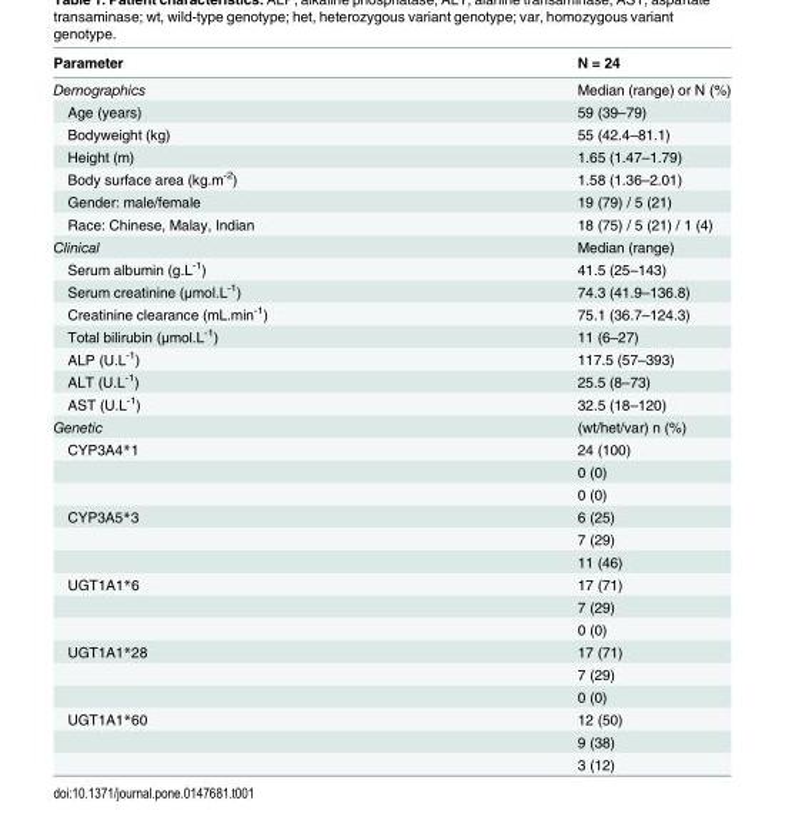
<table><thead><tr><td>Parameter</td><td>N = 24</td></tr></thead><tbody><tr><td>Demographics</td><td>Median (range) or N (%)</td></tr><tr><td>Age (years)</td><td>59 (39–79)</td></tr><tr><td>Bodyweight (kg)</td><td>55 (42.4–81.1)</td></tr><tr><td>Height (m)</td><td>1.65 (1.47–1.79)</td></tr><tr><td>Body surface area (kg.m<sup>-2</sup>)</td><td>1.58 (1.36–2.01)</td></tr><tr><td>Gender: male/female</td><td>19 (79) / 5 (21)</td></tr><tr><td>Race: Chinese, Malay, Indian</td><td>18 (75) / 5 (21) / 1 (4)</td></tr><tr><td>Clinical</td><td>Median (range)</td></tr><tr><td>Serum albumin (g.L<sup>-1</sup>)</td><td>41.5 (25–143)</td></tr><tr><td>Serum creatinine (μmol.L<sup>-1</sup>)</td><td>74.3 (41.9–136.8)</td></tr><tr><td>Creatinine clearance (mL.min<sup>-1</sup>)</td><td>75.1 (36.7–124.3)</td></tr><tr><td>Total bilirubin (μmol.L<sup>-1</sup>)</td><td>11 (6–27)</td></tr><tr><td>ALP (U.L<sup>-1</sup>)</td><td>117.5 (57–393)</td></tr><tr><td>ALT (U.L<sup>-1</sup>)</td><td>25.5 (8–73)</td></tr><tr><td>AST (U.L<sup>-1</sup>)</td><td>32.5 (18–120)</td></tr><tr><td>Genetic</td><td>(wt/het/var) n (%)</td></tr><tr><td rowspan="3">CYP3A4*1</td><td>24 (100)</td></tr><tr><td>0 (0)</td></tr><tr><td>0 (0)</td></tr><tr><td rowspan="3">CYP3A5*3</td><td>6 (25)</td></tr><tr><td>7 (29)</td></tr><tr><td>11 (46)</td></tr><tr><td rowspan="3">UGT1A1*6</td><td>17 (71)</td></tr><tr><td>7 (29)</td></tr><tr><td>0 (0)</td></tr><tr><td rowspan="3">UGT1A1*28</td><td>17 (71)</td></tr><tr><td>7 (29)</td></tr><tr><td>0 (0)</td></tr><tr><td rowspan="3">UGT1A1*60</td><td>12 (50)</td></tr><tr><td>9 (38)</td></tr><tr><td>3 (12)</td></tr></tbody></table>